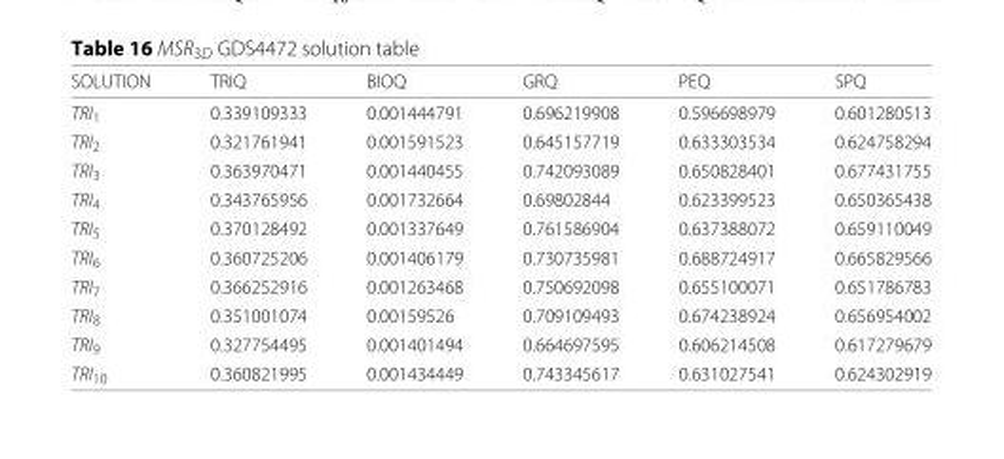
<table><thead><tr><td>SOLUTION</td><td>TRIQ</td><td>BIOQ</td><td>GRQ</td><td>PEQ</td><td>SPQ</td></tr></thead><tbody><tr><td>TRI<sub>1</sub></td><td>0.339109333</td><td>0.001444791</td><td>0.696219908</td><td>0.596698979</td><td>0.601280513</td></tr><tr><td>TRI<sub>2</sub></td><td>0.321761941</td><td>0.001591523</td><td>0.645157719</td><td>0.633303534</td><td>0.624758294</td></tr><tr><td>TRI<sub>3</sub></td><td>0.363970471</td><td>0.001440455</td><td>0.742093089</td><td>0.650828401</td><td>0.677431755</td></tr><tr><td>TRI<sub>4</sub></td><td>0.343765956</td><td>0.001732664</td><td>0.69802844</td><td>0.623399523</td><td>0.650365438</td></tr><tr><td>TRI<sub>5</sub></td><td>0.370128492</td><td>0.001337649</td><td>0.761586904</td><td>0.637388072</td><td>0.659110049</td></tr><tr><td>TRI<sub>6</sub></td><td>0.360725206</td><td>0.001406179</td><td>0.730735981</td><td>0.688724917</td><td>0.665829566</td></tr><tr><td>TRI<sub>7</sub></td><td>0.366252916</td><td>0.001263468</td><td>0.750692098</td><td>0.655100071</td><td>0.651786783</td></tr><tr><td>TRI<sub>8</sub></td><td>0.351001074</td><td>0.00159526</td><td>0.709109493</td><td>0.674238924</td><td>0.656954002</td></tr><tr><td>TRI<sub>9</sub></td><td>0.327754495</td><td>0.001401494</td><td>0.664697595</td><td>0.606214508</td><td>0.617279679</td></tr><tr><td>TRI<sub>10</sub></td><td>0.360821995</td><td>0.001434449</td><td>0.743345617</td><td>0.631027541</td><td>0.624302919</td></tr></tbody></table>